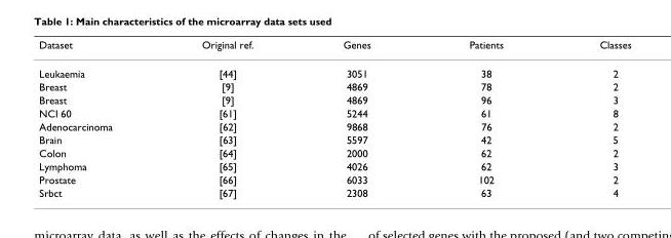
<table><thead><tr><td>Dataset</td><td>Original ref.</td><td>Genes</td><td>Patients</td><td>Classes</td></tr></thead><tbody><tr><td>Leukaemia</td><td>[44]</td><td>3051</td><td>38</td><td>2</td></tr><tr><td>Breast</td><td>[9]</td><td>4869</td><td>78</td><td>2</td></tr><tr><td>Breast</td><td>[9]</td><td>4869</td><td>96</td><td>3</td></tr><tr><td>NCI 60</td><td>[61]</td><td>5244</td><td>61</td><td>8</td></tr><tr><td>Adenocarcinoma</td><td>[62]</td><td>9868</td><td>76</td><td>2</td></tr><tr><td>Brain</td><td>[63]</td><td>5597</td><td>42</td><td>5</td></tr><tr><td>Colon</td><td>[64]</td><td>2000</td><td>62</td><td>2</td></tr><tr><td>Lymphoma</td><td>[65]</td><td>4026</td><td>62</td><td>3</td></tr><tr><td>Prostate</td><td>[66]</td><td>6033</td><td>102</td><td>2</td></tr><tr><td>Srbct</td><td>[67]</td><td>2308</td><td>63</td><td>4</td></tr></tbody></table>